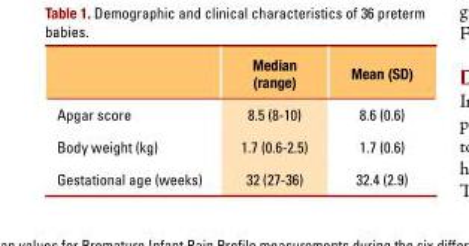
<table><thead><tr><td></td><td>Median (range)</td><td>Mean (SD)</td></tr></thead><tbody><tr><td>Apgar score</td><td>8.5 (8-10)</td><td>8.6 (0.6)</td></tr><tr><td>Body weight (kg)</td><td>1.7 (0.6-2.5)</td><td>1.7 (0.6)</td></tr><tr><td>Gestational age (weeks)</td><td>32 (27-36)</td><td>32.4 (2.9)</td></tr></tbody></table>